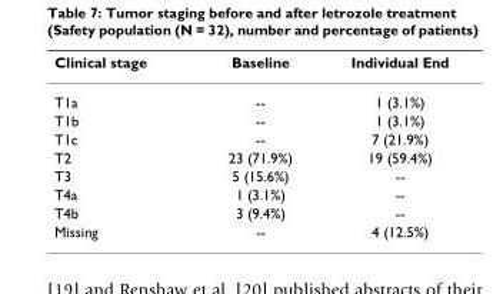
<table><thead><tr><td>Clinical stage</td><td>Baseline</td><td>Individual End</td></tr></thead><tbody><tr><td>T1a</td><td>--</td><td>1 (3.1%)</td></tr><tr><td>T1b</td><td>--</td><td>1 (3.1%)</td></tr><tr><td>T1c</td><td>--</td><td>7 (21.9%)</td></tr><tr><td>T2</td><td>23 (71.9%)</td><td>19 (59.4%)</td></tr><tr><td>T3</td><td>5 (15.6%)</td><td>--</td></tr><tr><td>T4a</td><td>1 (3.1%)</td><td>--</td></tr><tr><td>T4b</td><td>3 (9.4%)</td><td>--</td></tr><tr><td>Missing</td><td>--</td><td>4 (12.5%)</td></tr></tbody></table>